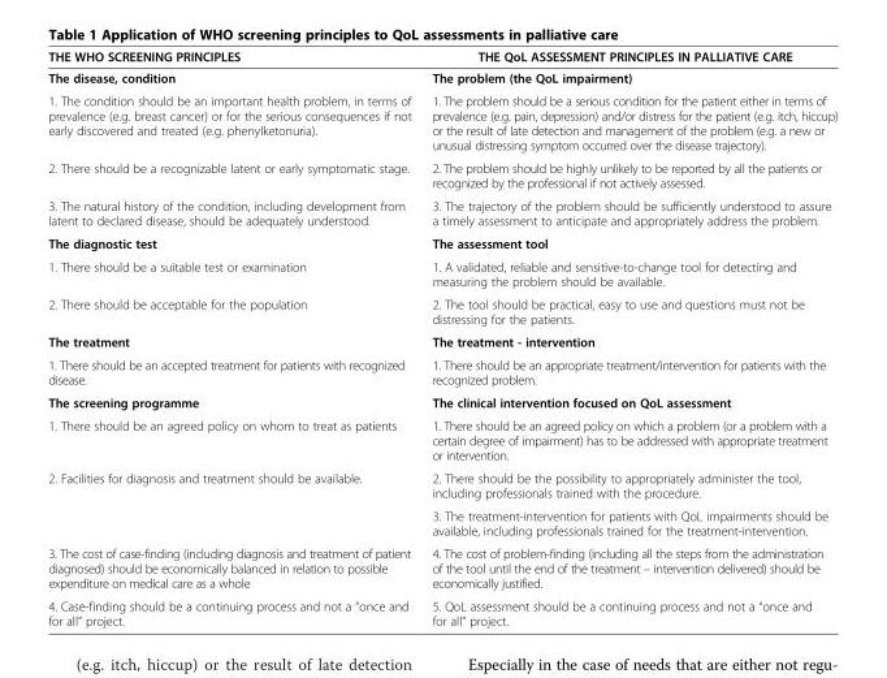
<table><thead><tr><td>THE WHO SCREENING PRINCIPLES</td><td>THE QoL ASSESSMENT PRINCIPLES IN PALLIATIVE CARE</td></tr></thead><tbody><tr><td>The disease, condition</td><td>The problem (the QoL impairment)</td></tr><tr><td>1. The condition should be an important health problem, in terms of prevalence (e.g. breast cancer) or for the serious consequences if not early discovered and treated (e.g. phenylketonuria).</td><td>1. The problem should be a serious condition for the patient either in terms of prevalence (e.g. pain, depression) and/or distress for the patient (e.g. itch, hiccup) or the result of late detection and management of the problem (e.g. a new or unusual distressing symptom occurred over the disease trajectory).</td></tr><tr><td>2. There should be a recognizable latent or early symptomatic stage.</td><td>2. The problem should be highly unlikely to be reported by all the patients or recognized by the professional if not actively assessed.</td></tr><tr><td>3. The natural history of the condition, including development from latent to declared disease, should be adequately understood.</td><td>3. The trajectory of the problem should be sufficiently understood to assure a timely assessment to anticipate and appropriately address the problem.</td></tr><tr><td>The diagnostic test</td><td>The assessment tool</td></tr><tr><td>1. There should be a suitable test or examination</td><td>1. A validated, reliable and sensitive-to-change tool for detecting and measuring the problem should be available.</td></tr><tr><td>2. There should be acceptable for the population</td><td>2. The tool should be practical, easy to use and questions must not be distressing for the patients.</td></tr><tr><td>The treatment</td><td>The treatment - intervention</td></tr><tr><td>1. There should be an accepted treatment for patients with recognized disease.</td><td>1. There should be an appropriate treatment/intervention for patients with the recognized problem.</td></tr><tr><td>The screening programme</td><td>The clinical intervention focused on QoL assessment</td></tr><tr><td>1. There should be an agreed policy on whom to treat as patients</td><td>1. There should be an agreed policy on which a problem (or a problem with a certain degree of impairment) has to be addressed with appropriate treatment or intervention.</td></tr><tr><td rowspan="2">2. Facilities for diagnosis and treatment should be available.</td><td>2. There should be the possibility to appropriately administer the tool, including professionals trained with the procedure.</td></tr><tr><td>3. The treatment-intervention for patients with QoL impairments should be available, including professionals trained for the treatment-intervention.</td></tr><tr><td>3. The cost of case-finding (including diagnosis and treatment of patient diagnosed) should be economically balanced in relation to possible expenditure on medical care as a whole</td><td>4. The cost of problem-finding (including all the steps from the administration of the tool until the end of the treatment – intervention delivered) should be economically justified.</td></tr><tr><td>4. Case-finding should be a continuing process and not a “once and for all” project.</td><td>5. QoL assessment should be a continuing process and not a “once and for all” project.</td></tr></tbody></table>